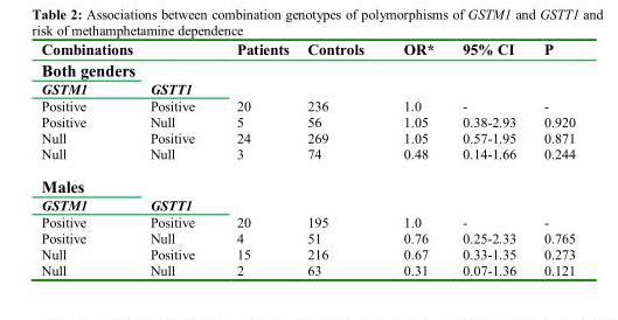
<table><thead><tr><td>Combinations</td><td></td><td>Patients</td><td>Controls</td><td>OR*</td><td>95% CI</td><td>P</td></tr></thead><tbody><tr><td colspan="7">Both genders</td></tr><tr><td>GSTM1</td><td>GSTT1</td><td></td><td></td><td></td><td></td><td></td></tr><tr><td>Positive</td><td>Positive</td><td>20</td><td>236</td><td>1.0</td><td>-</td><td>-</td></tr><tr><td>Positive</td><td>Null</td><td>5</td><td>56</td><td>1.05</td><td>0.38-2.93</td><td>0.920</td></tr><tr><td>Null</td><td>Positive</td><td>24</td><td>269</td><td>1.05</td><td>0.57-1.95</td><td>0.871</td></tr><tr><td>Null</td><td>Null</td><td>3</td><td>74</td><td>0.48</td><td>0.14-1.66</td><td>0.244</td></tr><tr><td colspan="7">Males</td></tr><tr><td>GSTM1</td><td>GSTT1</td><td></td><td></td><td></td><td></td><td></td></tr><tr><td>Positive</td><td>Positive</td><td>20</td><td>195</td><td>1.0</td><td>-</td><td>-</td></tr><tr><td>Positive</td><td>Null</td><td>4</td><td>51</td><td>0.76</td><td>0.25-2.33</td><td>0.765</td></tr><tr><td>Null</td><td>Positive</td><td>15</td><td>216</td><td>0.67</td><td>0.33-1.35</td><td>0.273</td></tr><tr><td>Null</td><td>Null</td><td>2</td><td>63</td><td>0.31</td><td>0.07-1.36</td><td>0.121</td></tr></tbody></table>